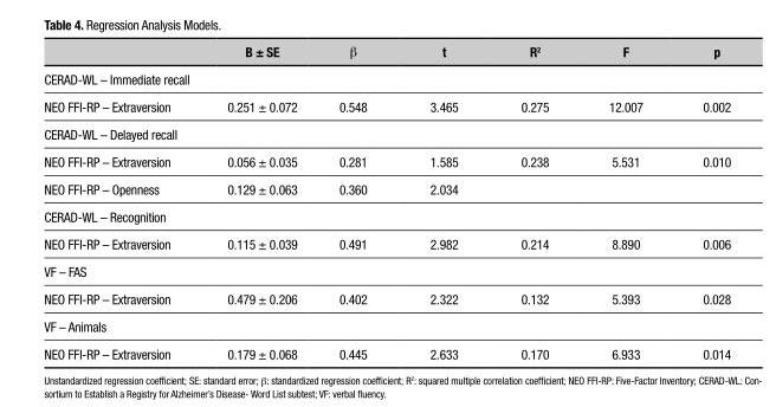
<table><thead><tr><td></td><td>B ± SE</td><td>β</td><td>t</td><td>R<sup>2</sup></td><td>F</td><td>p</td></tr></thead><tbody><tr><td colspan="7">CERAD-WL – Immediate recall</td></tr><tr><td>NEO FFI-RP – Extraversion</td><td>0.251 ± 0.072</td><td>0.548</td><td>3.465</td><td>0.275</td><td>12.007</td><td>0.002</td></tr><tr><td colspan="7">CERAD-WL – Delayed recall</td></tr><tr><td>NEO FFI-RP – Extraversion</td><td>0.056 ± 0.035</td><td>0.281</td><td>1.585</td><td>0.238</td><td>5.531</td><td>0.010</td></tr><tr><td>NEO FFI-RP – Openness</td><td>0.129 ± 0.063</td><td>0.360</td><td>2.034</td><td></td><td></td><td></td></tr><tr><td colspan="7">CERAD-WL – Recognition</td></tr><tr><td>NEO FFI-RP – Extraversion</td><td>0.115 ± 0.039</td><td>0.491</td><td>2.982</td><td>0.214</td><td>8.890</td><td>0.006</td></tr><tr><td colspan="7">VF – FAS</td></tr><tr><td>NEO FFI-RP – Extraversion</td><td>0.479 ± 0.206</td><td>0.402</td><td>2.322</td><td>0.132</td><td>5.393</td><td>0.028</td></tr><tr><td colspan="7">VF – Animals</td></tr><tr><td>NEO FFI-RP – Extraversion</td><td>0.179 ± 0.068</td><td>0.445</td><td>2.633</td><td>0.170</td><td>6.933</td><td>0.014</td></tr></tbody></table>